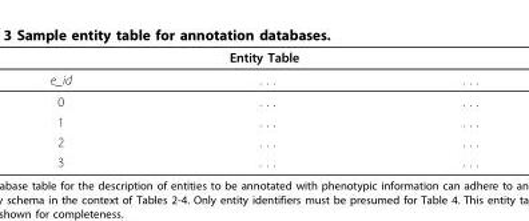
<table><thead><tr><td colspan="3">Entity Table</td></tr><tr><td>e_id</td><td>. . .</td><td>. . .</td></tr></thead><tbody><tr><td>0</td><td>. . .</td><td>. . .</td></tr><tr><td>1</td><td>. . .</td><td>. . .</td></tr><tr><td>2</td><td>. . .</td><td>. . .</td></tr><tr><td>3</td><td>. . .</td><td>. . .</td></tr></tbody></table>